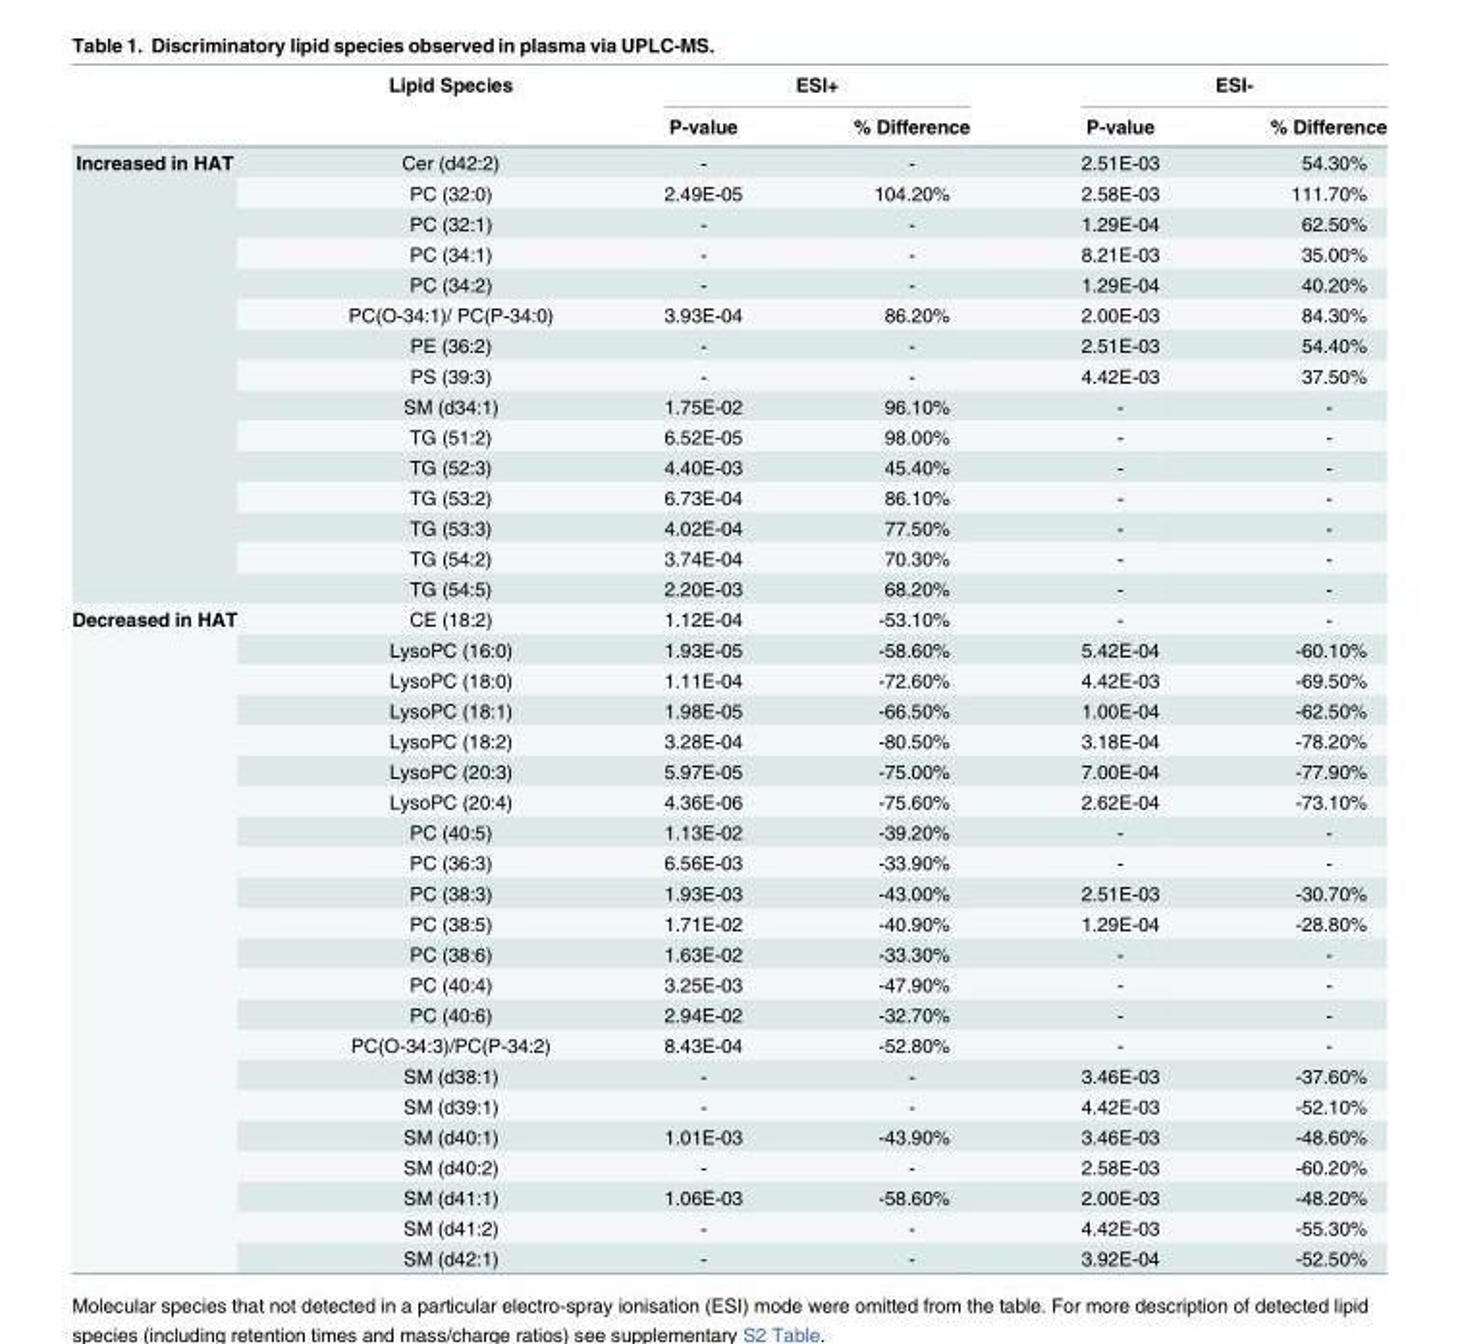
<table><thead><tr><td rowspan="2"></td><td rowspan="2">Lipid Species</td><td colspan="2">ESI+</td><td colspan="2">ESI-</td></tr><tr><td>P-value</td><td>% Difference</td><td>P-value</td><td>% Difference</td></tr></thead><tbody><tr><td rowspan="15">Increased in HAT</td><td>Cer (d42:2)</td><td>-</td><td>-</td><td>2.51E-03</td><td>54.30%</td></tr><tr><td>PC (32:0)</td><td>2.49E-05</td><td>104.20%</td><td>2.58E-03</td><td>111.70%</td></tr><tr><td>PC (32:1)</td><td>-</td><td>-</td><td>1.29E-04</td><td>62.50%</td></tr><tr><td>PC (34:1)</td><td>-</td><td>-</td><td>8.21E-03</td><td>35.00%</td></tr><tr><td>PC (34:2)</td><td>-</td><td>-</td><td>1.29E-04</td><td>40.20%</td></tr><tr><td>PC(O-34:1)/ PC(P-34:0)</td><td>3.93E-04</td><td>86.20%</td><td>2.00E-03</td><td>84.30%</td></tr><tr><td>PE (36:2)</td><td>-</td><td>-</td><td>2.51E-03</td><td>54.40%</td></tr><tr><td>PS (39:3)</td><td>-</td><td>-</td><td>4.42E-03</td><td>37.50%</td></tr><tr><td>SM (d34:1)</td><td>1.75E-02</td><td>96.10%</td><td>-</td><td>-</td></tr><tr><td>TG (51:2)</td><td>6.52E-05</td><td>98.00%</td><td>-</td><td>-</td></tr><tr><td>TG (52:3)</td><td>4.40E-03</td><td>45.40%</td><td>-</td><td>-</td></tr><tr><td>TG (53:2)</td><td>6.73E-04</td><td>86.10%</td><td>-</td><td>-</td></tr><tr><td>TG (53:3)</td><td>4.02E-04</td><td>77.50%</td><td>-</td><td>-</td></tr><tr><td>TG (54:2)</td><td>3.74E-04</td><td>70.30%</td><td>-</td><td>-</td></tr><tr><td>TG (54:5)</td><td>2.20E-03</td><td>68.20%</td><td>-</td><td>-</td></tr><tr><td rowspan="22">Decreased in HAT</td><td>CE (18:2)</td><td>1.12E-04</td><td>-53.10%</td><td>-</td><td>-</td></tr><tr><td>LysoPC (16:0)</td><td>1.93E-05</td><td>-58.60%</td><td>5.42E-04</td><td>-60.10%</td></tr><tr><td>LysoPC (18:0)</td><td>1.11E-04</td><td>-72.60%</td><td>4.42E-03</td><td>-69.50%</td></tr><tr><td>LysoPC (18:1)</td><td>1.98E-05</td><td>-66.50%</td><td>1.00E-04</td><td>-62.50%</td></tr><tr><td>LysoPC (18:2)</td><td>3.28E-04</td><td>-80.50%</td><td>3.18E-04</td><td>-78.20%</td></tr><tr><td>LysoPC (20:3)</td><td>5.97E-05</td><td>-75.00%</td><td>7.00E-04</td><td>-77.90%</td></tr><tr><td>LysoPC (20:4)</td><td>4.36E-06</td><td>-75.60%</td><td>2.62E-04</td><td>-73.10%</td></tr><tr><td>PC (40:5)</td><td>1.13E-02</td><td>-39.20%</td><td>-</td><td>-</td></tr><tr><td>PC (36:3)</td><td>6.56E-03</td><td>-33.90%</td><td>-</td><td>-</td></tr><tr><td>PC (38:3)</td><td>1.93E-03</td><td>-43.00%</td><td>2.51E-03</td><td>-30.70%</td></tr><tr><td>PC (38:5)</td><td>1.71E-02</td><td>-40.90%</td><td>1.29E-04</td><td>-28.80%</td></tr><tr><td>PC (38:6)</td><td>1.63E-02</td><td>-33.30%</td><td>-</td><td>-</td></tr><tr><td>PC (40:4)</td><td>3.25E-03</td><td>-47.90%</td><td>-</td><td>-</td></tr><tr><td>PC (40:6)</td><td>2.94E-02</td><td>-32.70%</td><td>-</td><td>-</td></tr><tr><td>PC(O-34:3)/PC(P-34:2)</td><td>8.43E-04</td><td>-52.80%</td><td>-</td><td>-</td></tr><tr><td>SM (d38:1)</td><td>-</td><td>-</td><td>3.46E-03</td><td>-37.60%</td></tr><tr><td>SM (d39:1)</td><td>-</td><td>-</td><td>4.42E-03</td><td>-52.10%</td></tr><tr><td>SM (d40:1)</td><td>1.01E-03</td><td>-43.90%</td><td>3.46E-03</td><td>-48.60%</td></tr><tr><td>SM (d40:2)</td><td>-</td><td>-</td><td>2.58E-03</td><td>-60.20%</td></tr><tr><td>SM (d41:1)</td><td>1.06E-03</td><td>-58.60%</td><td>2.00E-03</td><td>-48.20%</td></tr><tr><td>SM (d41:2)</td><td>-</td><td>-</td><td>4.42E-03</td><td>-55.30%</td></tr><tr><td>SM (d42:1)</td><td>-</td><td>-</td><td>3.92E-04</td><td>-52.50%</td></tr></tbody></table>